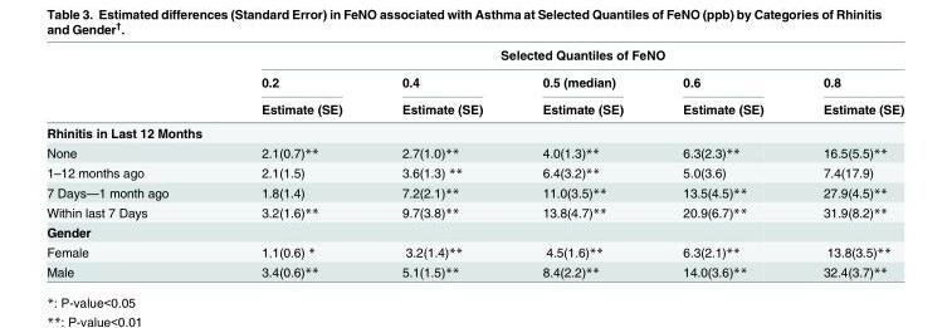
<table><thead><tr><td rowspan="3"></td><td colspan="5">Selected Quantiles of FeNO</td></tr><tr><td rowspan="2">0.2 Estimate (SE)</td><td rowspan="2">0.4 Estimate (SE)</td><td rowspan="2">0.5 (median) Estimate (SE)</td><td rowspan="2">0.6 Estimate (SE)</td><td rowspan="2">0.8 Estimate (SE)</td></tr><tr></tr></thead><tbody><tr><td colspan="6">Rhinitis in Last 12 Months</td></tr><tr><td>None</td><td>2.1(0.7)**</td><td>2.7(1.0)**</td><td>4.0(1.3)**</td><td>6.3(2.3)**</td><td>16.5(5.5)**</td></tr><tr><td>1–12 months ago</td><td>2.1(1.5)</td><td>3.6(1.3) **</td><td>6.4(3.2)**</td><td>5.0(3.6)</td><td>7.4(17.9)</td></tr><tr><td>7 Days—1 month ago</td><td>1.8(1.4)</td><td>7.2(2.1)**</td><td>11.0(3.5)**</td><td>13.5(4.5)**</td><td>27.9(4.5)**</td></tr><tr><td>Within last 7 Days</td><td>3.2(1.6)**</td><td>9.7(3.8)**</td><td>13.8(4.7)**</td><td>20.9(6.7)**</td><td>31.9(8.2)**</td></tr><tr><td colspan="6">Gender</td></tr><tr><td>Female</td><td>1.1(0.6) *</td><td>3.2(1.4)**</td><td>4.5(1.6)**</td><td>6.3(2.1)**</td><td>13.8(3.5)**</td></tr><tr><td>Male</td><td>3.4(0.6)**</td><td>5.1(1.5)**</td><td>8.4(2.2)**</td><td>14.0(3.6)**</td><td>32.4(3.7)**</td></tr></tbody></table>